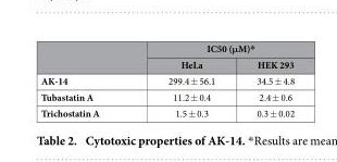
<table><thead><tr><td rowspan="2"></td><td colspan="2">IC50 (μM)*</td></tr><tr><td>HeLa</td><td>HEK 293</td></tr></thead><tbody><tr><td>AK-14</td><td>299.4 ± 56.1</td><td>34.5 ± 4.8</td></tr><tr><td>Tubastatin A</td><td>11.2 ± 0.4</td><td>2.4 ± 0.6</td></tr><tr><td>Trichostatin A</td><td>1.5 ± 0.3</td><td>0.3 ± 0.02</td></tr></tbody></table>